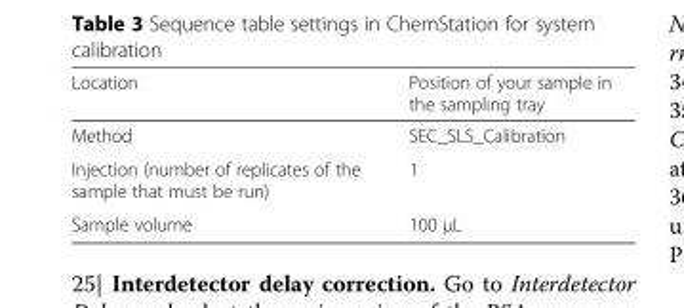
<table><thead><tr><td>Location</td><td>Position of your sample in the sampling tray</td></tr></thead><tbody><tr><td>Method</td><td>SEC_SLS_Calibration</td></tr><tr><td>Injection (number of replicates of the sample that must be run)</td><td>1</td></tr><tr><td>Sample volume</td><td>100 μL</td></tr></tbody></table>